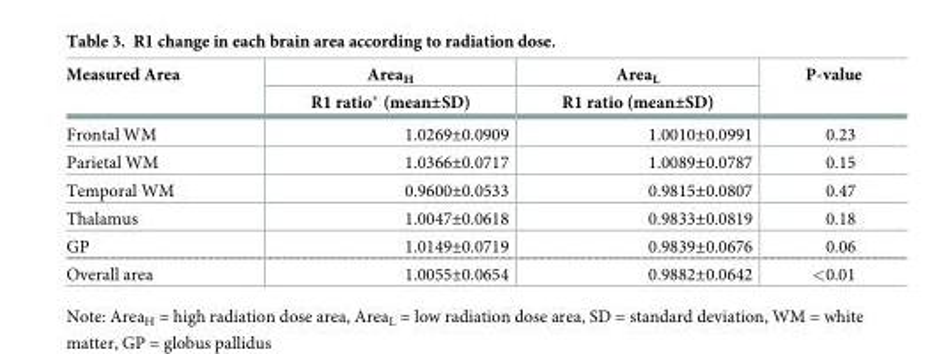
<table><thead><tr><td rowspan="2">Measured Area</td><td rowspan="2">AreaH R1 ratio* (mean±SD)</td><td rowspan="2">AreaL R1 ratio (mean±SD)</td><td rowspan="2">P-value</td></tr><tr></tr></thead><tbody><tr><td>Frontal WM</td><td>1.0269±0.0909</td><td>1.0010±0.0991</td><td>0.23</td></tr><tr><td>Parietal WM</td><td>1.0366±0.0717</td><td>1.0089±0.0787</td><td>0.15</td></tr><tr><td>Temporal WM</td><td>0.9600±0.0533</td><td>0.9815±0.0807</td><td>0.47</td></tr><tr><td>Thalamus</td><td>1.0047±0.0618</td><td>0.9833±0.0819</td><td>0.18</td></tr><tr><td>GP</td><td>1.0149±0.0719</td><td>0.9839±0.0676</td><td>0.06</td></tr><tr><td>Overall area</td><td>1.0055±0.0654</td><td>0.9882±0.0642</td><td>&lt;0.01</td></tr></tbody></table>